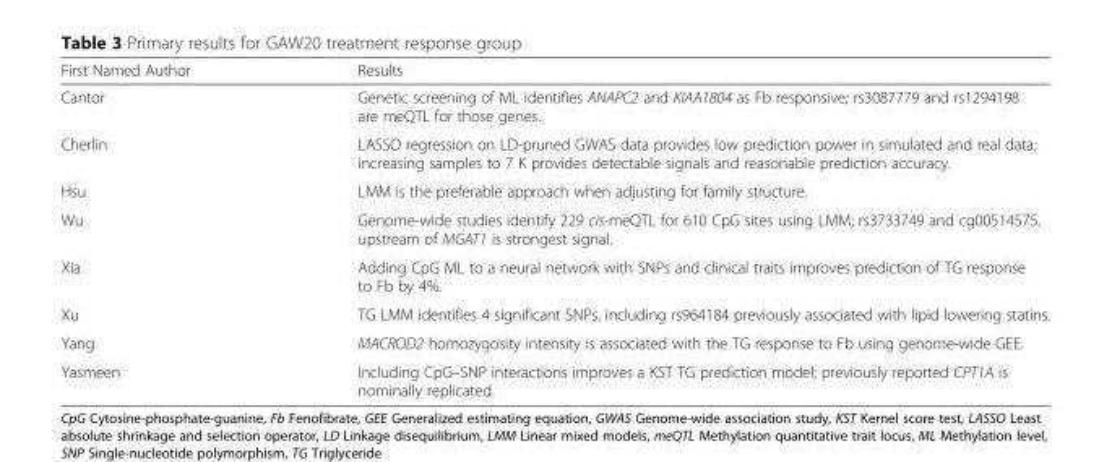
<table><thead><tr><td>First Named Author</td><td>Results</td></tr></thead><tbody><tr><td>Cantor</td><td>Genetic screening of ML identifies ANAPC2 and KIAA1804 as Fb responsive; rs3087779 and rs1294198 are meQTL for those genes.</td></tr><tr><td>Cherlin</td><td>LASSO regression on LD-pruned GWAS data provides low prediction power in simulated and real data; increasing samples to 7 K provides detectable signals and reasonable prediction accuracy.</td></tr><tr><td>Hsu</td><td>LMM is the preferable approach when adjusting for family structure.</td></tr><tr><td>Wu</td><td>Genome-wide studies identify 229 cis-meQTL for 610 CpG sites using LMM; rs3733749 and cg00514575, upstream of MGAT1 is strongest signal.</td></tr><tr><td>Xia</td><td>Adding CpG ML to a neural network with SNPs and clinical traits improves prediction of TG response to Fb by 4%.</td></tr><tr><td>Xu</td><td>TG LMM identifies 4 significant SNPs, including rs964184 previously associated with lipid lowering statins.</td></tr><tr><td>Yang</td><td>MACROD2 homozygosity intensity is associated with the TG response to Fb using genome-wide GEE.</td></tr><tr><td>Yasmeen</td><td>Including CpG–SNP interactions improves a KST TG prediction model; previously reported CPT1A is nominally replicated.</td></tr></tbody></table>